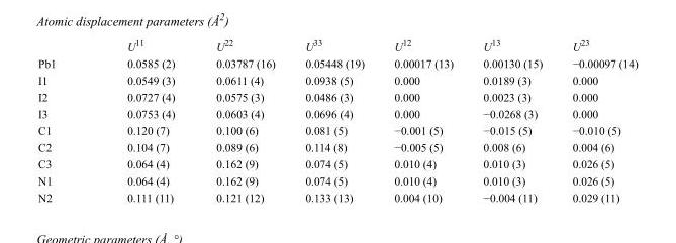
<table><thead><tr><td></td><td>U<sup>11</sup></td><td>U<sup>22</sup></td><td>U<sup>33</sup></td><td>U<sup>12</sup></td><td>U<sup>13</sup></td><td>U<sup>23</sup></td></tr></thead><tbody><tr><td>Pb1</td><td>0.0585 (2)</td><td>0.03787 (16)</td><td>0.05448 (19)</td><td>0.00017 (13)</td><td>0.00130 (15)</td><td>−0.00097 (14)</td></tr><tr><td>I1</td><td>0.0549 (3)</td><td>0.0611 (4)</td><td>0.0938 (5)</td><td>0.000</td><td>0.0189 (3)</td><td>0.000</td></tr><tr><td>I2</td><td>0.0727 (4)</td><td>0.0575 (3)</td><td>0.0486 (3)</td><td>0.000</td><td>0.0023 (3)</td><td>0.000</td></tr><tr><td>I3</td><td>0.0753 (4)</td><td>0.0603 (4)</td><td>0.0696 (4)</td><td>0.000</td><td>−0.0268 (3)</td><td>0.000</td></tr><tr><td>C1</td><td>0.120 (7)</td><td>0.100 (6)</td><td>0.081 (5)</td><td>−0.001 (5)</td><td>−0.015 (5)</td><td>−0.010 (5)</td></tr><tr><td>C2</td><td>0.104 (7)</td><td>0.089 (6)</td><td>0.114 (8)</td><td>−0.005 (5)</td><td>0.008 (6)</td><td>0.004 (6)</td></tr><tr><td>C3</td><td>0.064 (4)</td><td>0.162 (9)</td><td>0.074 (5)</td><td>0.010 (4)</td><td>0.010 (3)</td><td>0.026 (5)</td></tr><tr><td>N1</td><td>0.064 (4)</td><td>0.162 (9)</td><td>0.074 (5)</td><td>0.010 (4)</td><td>0.010 (3)</td><td>0.026 (5)</td></tr><tr><td>N2</td><td>0.111 (11)</td><td>0.121 (12)</td><td>0.133 (13)</td><td>0.004 (10)</td><td>−0.004 (11)</td><td>0.029 (11)</td></tr></tbody></table>